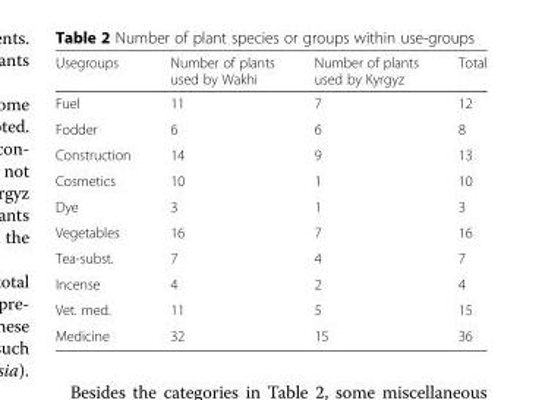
<table><thead><tr><td>Usegroups</td><td>Number of plants used by Wakhi</td><td>Number of plants used by Kyrgyz</td><td>Total</td></tr></thead><tbody><tr><td>Fuel</td><td>11</td><td>7</td><td>12</td></tr><tr><td>Fodder</td><td>6</td><td>6</td><td>8</td></tr><tr><td>Construction</td><td>14</td><td>9</td><td>13</td></tr><tr><td>Cosmetics</td><td>10</td><td>1</td><td>10</td></tr><tr><td>Dye</td><td>3</td><td>1</td><td>3</td></tr><tr><td>Vegetables</td><td>16</td><td>7</td><td>16</td></tr><tr><td>Tea-subst.</td><td>7</td><td>4</td><td>7</td></tr><tr><td>Incense</td><td>4</td><td>2</td><td>4</td></tr><tr><td>Vet. med.</td><td>11</td><td>5</td><td>15</td></tr><tr><td>Medicine</td><td>32</td><td>15</td><td>36</td></tr></tbody></table>